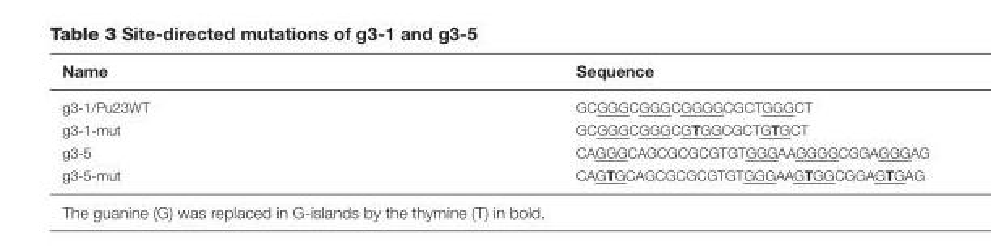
<table><thead><tr><td>Name</td><td>Sequence</td></tr></thead><tbody><tr><td>g3-1/Pu23WT</td><td>GCGGGCGGGCGGGGCGCTGGGCT</td></tr><tr><td>g3-1-mut</td><td>GCGGGCGGGCGTGGCGCTGTGCT</td></tr><tr><td>g3-5</td><td>CAGGGCAGCGCGCGTGTGGGAAGGGGCGGAGGGAG</td></tr><tr><td>g3-5-mut</td><td>CAGTGCAGCGCGCGTGTGGGAAGTGGCGGAGTGAG</td></tr></tbody></table>